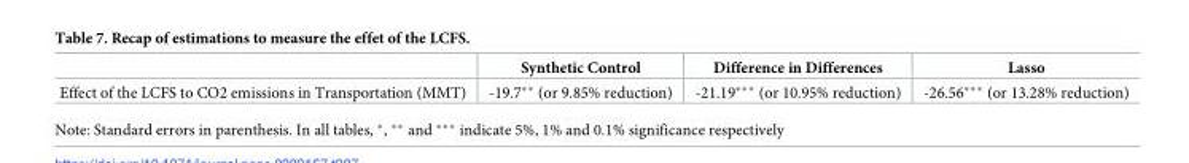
<table><thead><tr><td></td><td>Synthetic Control</td><td>Difference in Differences</td><td>Lasso</td></tr></thead><tbody><tr><td>Effect of the LCFS to CO2 emissions in Transportation (MMT)</td><td>-19.7** (or 9.85% reduction)</td><td>-21.19*** (or 10.95% reduction)</td><td>-26.56*** (or 13.28% reduction)</td></tr></tbody></table>